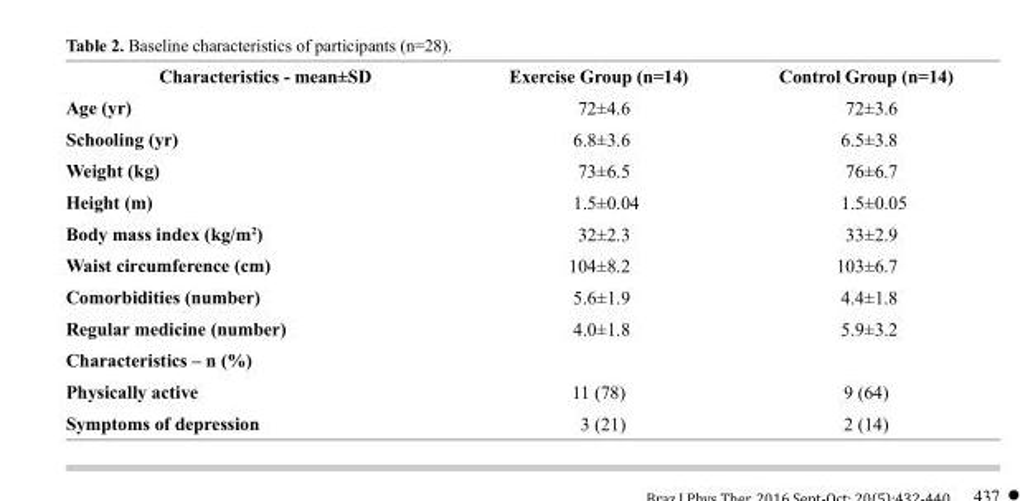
<table><thead><tr><td>Characteristics - mean±SD</td><td>Exercise Group (n=14)</td><td>Control Group (n=14)</td></tr></thead><tbody><tr><td>Age (yr)</td><td>72±4.6</td><td>72±3.6</td></tr><tr><td>Schooling (yr)</td><td>6.8±3.6</td><td>6.5±3.8</td></tr><tr><td>Weight (kg)</td><td>73±6.5</td><td>76±6.7</td></tr><tr><td>Height (m)</td><td>1.5±0.04</td><td>1.5±0.05</td></tr><tr><td>Body mass index (kg/m<sup>2</sup>)</td><td>32±2.3</td><td>33±2.9</td></tr><tr><td>Waist circumference (cm)</td><td>104±8.2</td><td>103±6.7</td></tr><tr><td>Comorbidities (number)</td><td>5.6±1.9</td><td>4.4±1.8</td></tr><tr><td>Regular medicine (number)</td><td>4.0±1.8</td><td>5.9±3.2</td></tr><tr><td colspan="3">Characteristics – n (%)</td></tr><tr><td>Physically active</td><td>11 (78)</td><td>9 (64)</td></tr><tr><td>Symptoms of depression</td><td>3 (21)</td><td>2 (14)</td></tr></tbody></table>